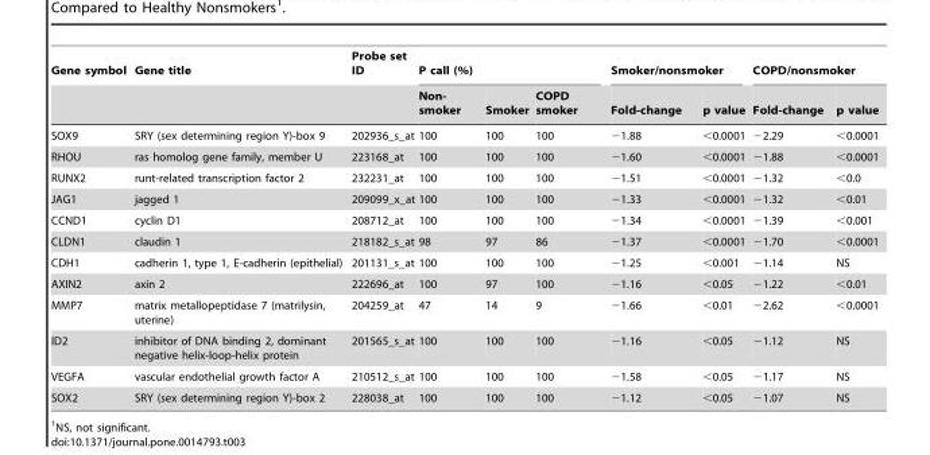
<table><thead><tr><td rowspan="2">Gene symbol</td><td rowspan="2">Gene title</td><td rowspan="2">Probe set ID</td><td colspan="3">P call (%)</td><td colspan="2">Smoker/nonsmoker</td><td colspan="2">COPD/nonsmoker</td></tr><tr><td>Non- smoker</td><td>Smoker</td><td>COPD smoker</td><td>Fold-change</td><td>p value</td><td>Fold-change</td><td>p value</td></tr></thead><tbody><tr><td>SOX9</td><td>SRY (sex determining region Y)-box 9</td><td>202936_s_at</td><td>100</td><td>100</td><td>100</td><td>−1.88</td><td>&lt;0.0001</td><td>−2.29</td><td>&lt;0.0001</td></tr><tr><td>RHOU</td><td>ras homolog gene family, member U</td><td>223168_at</td><td>100</td><td>100</td><td>100</td><td>−1.60</td><td>&lt;0.0001</td><td>−1.88</td><td>&lt;0.0001</td></tr><tr><td>RUNX2</td><td>runt-related transcription factor 2</td><td>232231_at</td><td>100</td><td>100</td><td>100</td><td>−1.51</td><td>&lt;0.0001</td><td>−1.32</td><td>&lt;0.0</td></tr><tr><td>JAG1</td><td>jagged 1</td><td>209099_x_at</td><td>100</td><td>100</td><td>100</td><td>−1.33</td><td>&lt;0.0001</td><td>−1.32</td><td>&lt;0.01</td></tr><tr><td>CCND1</td><td>cyclin D1</td><td>208712_at</td><td>100</td><td>100</td><td>100</td><td>−1.34</td><td>&lt;0.0001</td><td>−1.39</td><td>&lt;0.001</td></tr><tr><td>CLDN1</td><td>claudin 1</td><td>218182_s_at</td><td>98</td><td>97</td><td>86</td><td>−1.37</td><td>&lt;0.0001</td><td>−1.70</td><td>&lt;0.0001</td></tr><tr><td>CDH1</td><td>cadherin 1, type 1, E-cadherin (epithelial)</td><td>201131_s_at</td><td>100</td><td>100</td><td>100</td><td>−1.25</td><td>&lt;0.001</td><td>−1.14</td><td>NS</td></tr><tr><td>AXIN2</td><td>axin 2</td><td>222696_at</td><td>100</td><td>97</td><td>100</td><td>−1.16</td><td>&lt;0.05</td><td>−1.22</td><td>&lt;0.01</td></tr><tr><td>MMP7</td><td>matrix metallopeptidase 7 (matrilysin, uterine)</td><td>204259_at</td><td>47</td><td>14</td><td>9</td><td>−1.66</td><td>&lt;0.01</td><td>−2.62</td><td>&lt;0.0001</td></tr><tr><td>ID2</td><td>inhibitor of DNA binding 2, dominant negative helix-loop-helix protein</td><td>201565_s_at</td><td>100</td><td>100</td><td>100</td><td>−1.16</td><td>&lt;0.05</td><td>−1.12</td><td>NS</td></tr><tr><td>VEGFA</td><td>vascular endothelial growth factor A</td><td>210512_s_at</td><td>100</td><td>100</td><td>100</td><td>−1.58</td><td>&lt;0.05</td><td>−1.17</td><td>NS</td></tr><tr><td>SOX2</td><td>SRY (sex determining region Y)-box 2</td><td>228038_at</td><td>100</td><td>100</td><td>100</td><td>−1.12</td><td>&lt;0.05</td><td>−1.07</td><td>NS</td></tr></tbody></table>